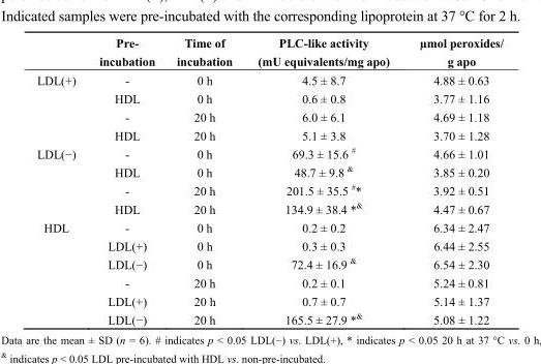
<table><thead><tr><td></td><td>Pre- incubation</td><td>Time of incubation</td><td>PLC-like activity (mU equivalents/mg apo)</td><td>µmol peroxides/ g apo</td></tr></thead><tbody><tr><td rowspan="4">LDL(+)</td><td>-</td><td>0 h</td><td>4.5 ± 8.7</td><td>4.88 ± 0.63</td></tr><tr><td>HDL</td><td>0 h</td><td>0.6 ± 0.8</td><td>3.77 ± 1.16</td></tr><tr><td>-</td><td>20 h</td><td>6.0 ± 6.1</td><td>4.69 ± 1.18</td></tr><tr><td>HDL</td><td>20 h</td><td>5.1 ± 3.8</td><td>3.70 ± 1.28</td></tr><tr><td rowspan="4">LDL(−)</td><td>-</td><td>0 h</td><td>69.3 ± 15.6 #</td><td>4.66 ± 1.01</td></tr><tr><td>HDL</td><td>0 h</td><td>48.7 ± 9.8 &amp;</td><td>3.85 ± 0.20</td></tr><tr><td>-</td><td>20 h</td><td>201.5 ± 35.5 #*</td><td>3.92 ± 0.51</td></tr><tr><td>HDL</td><td>20 h</td><td>134.9 ± 38.4 *&amp;</td><td>4.47 ± 0.67</td></tr><tr><td rowspan="6">HDL</td><td>-</td><td>0 h</td><td>0.2 ± 0.2</td><td>6.34 ± 2.47</td></tr><tr><td>LDL(+)</td><td>0 h</td><td>0.3 ± 0.3</td><td>6.44 ± 2.55</td></tr><tr><td>LDL(−)</td><td>0 h</td><td>72.4 ± 16.9 &amp;</td><td>6.54 ± 2.30</td></tr><tr><td>-</td><td>20 h</td><td>0.2 ± 0.1</td><td>5.24 ± 0.81</td></tr><tr><td>LDL(+)</td><td>20 h</td><td>0.7 ± 0.7</td><td>5.14 ± 1.37</td></tr><tr><td>LDL(−)</td><td>20 h</td><td>165.5 ± 27.9 *&amp;</td><td>5.08 ± 1.22</td></tr></tbody></table>